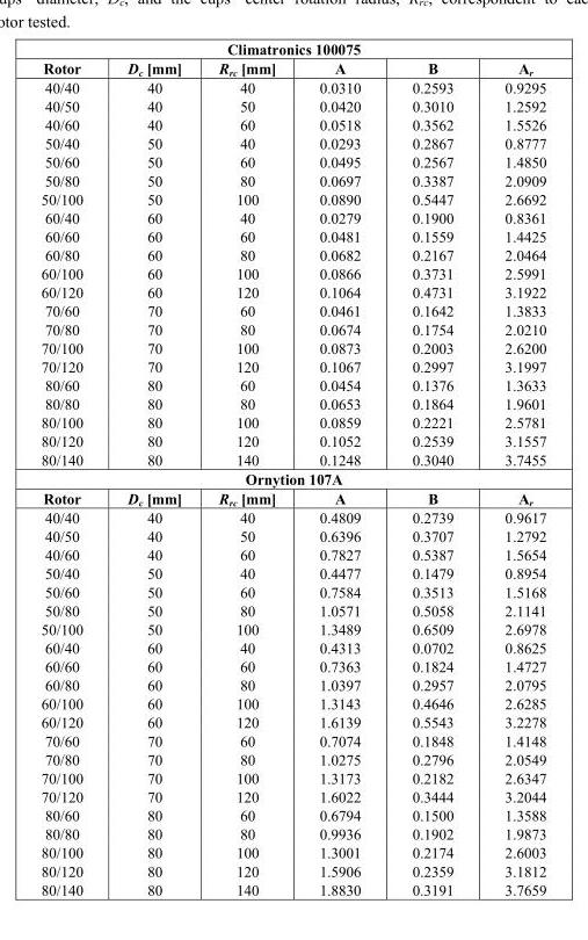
<table><thead><tr><td colspan="6">Climatronics 100075</td></tr><tr><td>Rotor</td><td>D<sub>c</sub> [mm]</td><td>R<sub>rc</sub> [mm]</td><td>A</td><td>B</td><td>A<sub>r</sub></td></tr></thead><tbody><tr><td>40/40</td><td>40</td><td>40</td><td>0.0310</td><td>0.2593</td><td>0.9295</td></tr><tr><td>40/50</td><td>40</td><td>50</td><td>0.0420</td><td>0.3010</td><td>1.2592</td></tr><tr><td>40/60</td><td>40</td><td>60</td><td>0.0518</td><td>0.3562</td><td>1.5526</td></tr><tr><td>50/40</td><td>50</td><td>40</td><td>0.0293</td><td>0.2867</td><td>0.8777</td></tr><tr><td>50/60</td><td>50</td><td>60</td><td>0.0495</td><td>0.2567</td><td>1.4850</td></tr><tr><td>50/80</td><td>50</td><td>80</td><td>0.0697</td><td>0.3387</td><td>2.0909</td></tr><tr><td>50/100</td><td>50</td><td>100</td><td>0.0890</td><td>0.5447</td><td>2.6692</td></tr><tr><td>60/40</td><td>60</td><td>40</td><td>0.0279</td><td>0.1900</td><td>0.8361</td></tr><tr><td>60/60</td><td>60</td><td>60</td><td>0.0481</td><td>0.1559</td><td>1.4425</td></tr><tr><td>60/80</td><td>60</td><td>80</td><td>0.0682</td><td>0.2167</td><td>2.0464</td></tr><tr><td>60/100</td><td>60</td><td>100</td><td>0.0866</td><td>0.3731</td><td>2.5991</td></tr><tr><td>60/120</td><td>60</td><td>120</td><td>0.1064</td><td>0.4731</td><td>3.1922</td></tr><tr><td>70/60</td><td>70</td><td>60</td><td>0.0461</td><td>0.1642</td><td>1.3833</td></tr><tr><td>70/80</td><td>70</td><td>80</td><td>0.0674</td><td>0.1754</td><td>2.0210</td></tr><tr><td>70/100</td><td>70</td><td>100</td><td>0.0873</td><td>0.2003</td><td>2.6200</td></tr><tr><td>70/120</td><td>70</td><td>120</td><td>0.1067</td><td>0.2997</td><td>3.1997</td></tr><tr><td>80/60</td><td>80</td><td>60</td><td>0.0454</td><td>0.1376</td><td>1.3633</td></tr><tr><td>80/80</td><td>80</td><td>80</td><td>0.0653</td><td>0.1864</td><td>1.9601</td></tr><tr><td>80/100</td><td>80</td><td>100</td><td>0.0859</td><td>0.2221</td><td>2.5781</td></tr><tr><td>80/120</td><td>80</td><td>120</td><td>0.1052</td><td>0.2539</td><td>3.1557</td></tr><tr><td>80/140</td><td>80</td><td>140</td><td>0.1248</td><td>0.3040</td><td>3.7455</td></tr><tr><td colspan="6">Ornytion 107A</td></tr><tr><td>Rotor</td><td>D<sub>c</sub> [mm]</td><td>R<sub>rc</sub> [mm]</td><td>A</td><td>B</td><td>A<sub>r</sub></td></tr><tr><td>40/40</td><td>40</td><td>40</td><td>0.4809</td><td>0.2739</td><td>0.9617</td></tr><tr><td>40/50</td><td>40</td><td>50</td><td>0.6396</td><td>0.3707</td><td>1.2792</td></tr><tr><td>40/60</td><td>40</td><td>60</td><td>0.7827</td><td>0.5387</td><td>1.5654</td></tr><tr><td>50/40</td><td>50</td><td>40</td><td>0.4477</td><td>0.1479</td><td>0.8954</td></tr><tr><td>50/60</td><td>50</td><td>60</td><td>0.7584</td><td>0.3513</td><td>1.5168</td></tr><tr><td>50/80</td><td>50</td><td>80</td><td>1.0571</td><td>0.5058</td><td>2.1141</td></tr><tr><td>50/100</td><td>50</td><td>100</td><td>1.3489</td><td>0.6509</td><td>2.6978</td></tr><tr><td>60/40</td><td>60</td><td>40</td><td>0.4313</td><td>0.0702</td><td>0.8625</td></tr><tr><td>60/60</td><td>60</td><td>60</td><td>0.7363</td><td>0.1824</td><td>1.4727</td></tr><tr><td>60/80</td><td>60</td><td>80</td><td>1.0397</td><td>0.2957</td><td>2.0795</td></tr><tr><td>60/100</td><td>60</td><td>100</td><td>1.3143</td><td>0.4646</td><td>2.6285</td></tr><tr><td>60/120</td><td>60</td><td>120</td><td>1.6139</td><td>0.5543</td><td>3.2278</td></tr><tr><td>70/60</td><td>70</td><td>60</td><td>0.7074</td><td>0.1848</td><td>1.4148</td></tr><tr><td>70/80</td><td>70</td><td>80</td><td>1.0275</td><td>0.2796</td><td>2.0549</td></tr><tr><td>70/100</td><td>70</td><td>100</td><td>1.3173</td><td>0.2182</td><td>2.6347</td></tr><tr><td>70/120</td><td>70</td><td>120</td><td>1.6022</td><td>0.3444</td><td>3.2044</td></tr><tr><td>80/60</td><td>80</td><td>60</td><td>0.6794</td><td>0.1500</td><td>1.3588</td></tr><tr><td>80/80</td><td>80</td><td>80</td><td>0.9936</td><td>0.1902</td><td>1.9873</td></tr><tr><td>80/100</td><td>80</td><td>100</td><td>1.3001</td><td>0.2174</td><td>2.6003</td></tr><tr><td>80/120</td><td>80</td><td>120</td><td>1.5906</td><td>0.2359</td><td>3.1812</td></tr><tr><td>80/140</td><td>80</td><td>140</td><td>1.8830</td><td>0.3191</td><td>3.7659</td></tr></tbody></table>